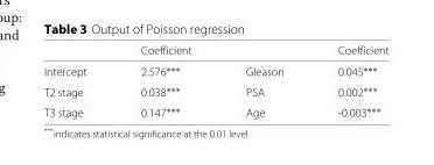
<table><thead><tr><td></td><td>Coefficient</td><td></td><td>Coefficient</td></tr></thead><tbody><tr><td>Intercept</td><td>2.576∗∗∗</td><td>Gleason</td><td>0.045∗∗∗</td></tr><tr><td>T2 stage</td><td>0.038∗∗∗</td><td>PSA</td><td>0.002∗∗∗</td></tr><tr><td>T3 stage</td><td>0.147∗∗∗</td><td>Age</td><td>-0.003∗∗∗</td></tr></tbody></table>